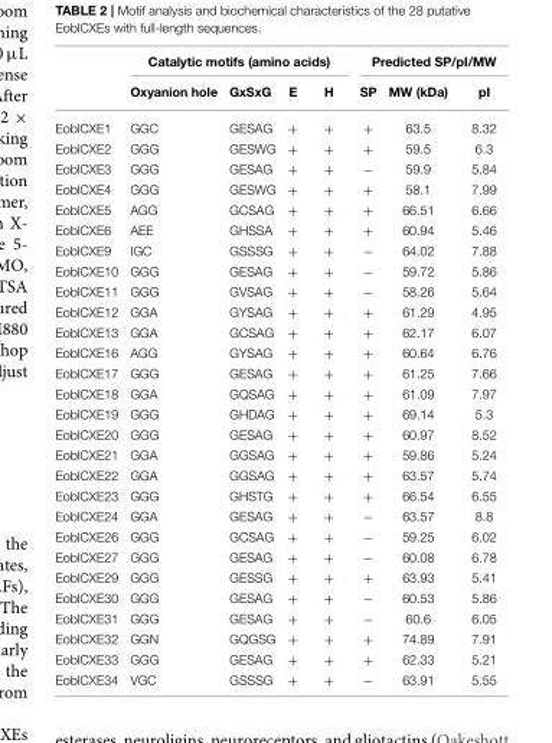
<table><thead><tr><td rowspan="2"></td><td colspan="4">Catalytic motifs (amino acids)</td><td colspan="3">Predicted SP/pI/MW</td></tr><tr><td>Oxyanion hole</td><td>GxSxG</td><td>E</td><td>H</td><td>SP</td><td>MW (kDa)</td><td>pI</td></tr></thead><tbody><tr><td>EoblCXE1</td><td>GGC</td><td>GESAG</td><td>+</td><td>+</td><td>+</td><td>63.5</td><td>8.32</td></tr><tr><td>EoblCXE2</td><td>GGG</td><td>GESWG</td><td>+</td><td>+</td><td>+</td><td>59.5</td><td>6.3</td></tr><tr><td>EoblCXE3</td><td>GGG</td><td>GESAG</td><td>+</td><td>+</td><td>−</td><td>59.9</td><td>5.84</td></tr><tr><td>EoblCXE4</td><td>GGG</td><td>GESWG</td><td>+</td><td>+</td><td>+</td><td>58.1</td><td>7.99</td></tr><tr><td>EoblCXE5</td><td>AGG</td><td>GCSAG</td><td>+</td><td>+</td><td>+</td><td>66.51</td><td>6.66</td></tr><tr><td>EoblCXE6</td><td>AEE</td><td>GHSSA</td><td>+</td><td>+</td><td>+</td><td>60.94</td><td>5.46</td></tr><tr><td>EoblCXE9</td><td>IGC</td><td>GSSSG</td><td>+</td><td>+</td><td>−</td><td>64.02</td><td>7.88</td></tr><tr><td>EoblCXE10</td><td>GGG</td><td>GESAG</td><td>+</td><td>+</td><td>−</td><td>59.72</td><td>5.86</td></tr><tr><td>EoblCXE11</td><td>GGG</td><td>GVSAG</td><td>+</td><td>+</td><td>−</td><td>58.26</td><td>5.64</td></tr><tr><td>EoblCXE12</td><td>GGA</td><td>GYSAG</td><td>+</td><td>+</td><td>+</td><td>61.29</td><td>4.95</td></tr><tr><td>EoblCXE13</td><td>GGA</td><td>GCSAG</td><td>+</td><td>+</td><td>+</td><td>62.17</td><td>6.07</td></tr><tr><td>EoblCXE16</td><td>AGG</td><td>GYSAG</td><td>+</td><td>+</td><td>+</td><td>60.64</td><td>6.76</td></tr><tr><td>EoblCXE17</td><td>GGG</td><td>GESAG</td><td>+</td><td>+</td><td>+</td><td>61.25</td><td>7.66</td></tr><tr><td>EoblCXE18</td><td>GGA</td><td>GQSAG</td><td>+</td><td>+</td><td>+</td><td>61.09</td><td>7.97</td></tr><tr><td>EoblCXE19</td><td>GGG</td><td>GHDAG</td><td>+</td><td>+</td><td>+</td><td>69.14</td><td>5.3</td></tr><tr><td>EoblCXE20</td><td>GGG</td><td>GESAG</td><td>+</td><td>+</td><td>+</td><td>60.97</td><td>8.52</td></tr><tr><td>EoblCXE21</td><td>GGA</td><td>GGSAG</td><td>+</td><td>+</td><td>+</td><td>59.86</td><td>5.24</td></tr><tr><td>EoblCXE22</td><td>GGA</td><td>GGSAG</td><td>+</td><td>+</td><td>+</td><td>63.57</td><td>5.74</td></tr><tr><td>EoblCXE23</td><td>GGG</td><td>GHSTG</td><td>+</td><td>+</td><td>+</td><td>66.54</td><td>6.55</td></tr><tr><td>EoblCXE24</td><td>GGA</td><td>GESAG</td><td>+</td><td>+</td><td>−</td><td>63.57</td><td>8.8</td></tr><tr><td>EoblCXE26</td><td>GGG</td><td>GCSAG</td><td>+</td><td>+</td><td>−</td><td>59.25</td><td>6.02</td></tr><tr><td>EoblCXE27</td><td>GGG</td><td>GESAG</td><td>+</td><td>+</td><td>−</td><td>60.08</td><td>6.78</td></tr><tr><td>EoblCXE29</td><td>GGG</td><td>GESSG</td><td>+</td><td>+</td><td>+</td><td>63.93</td><td>5.41</td></tr><tr><td>EoblCXE30</td><td>GGG</td><td>GESAG</td><td>+</td><td>+</td><td>−</td><td>60.53</td><td>5.86</td></tr><tr><td>EoblCXE31</td><td>GGG</td><td>GESAG</td><td>+</td><td>+</td><td>−</td><td>60.6</td><td>6.05</td></tr><tr><td>EoblCXE32</td><td>GGN</td><td>GQGSG</td><td>+</td><td>+</td><td>+</td><td>74.89</td><td>7.91</td></tr><tr><td>EoblCXE33</td><td>GGG</td><td>GESAG</td><td>+</td><td>+</td><td>+</td><td>62.33</td><td>5.21</td></tr><tr><td>EoblCXE34</td><td>VGC</td><td>GSSSG</td><td>+</td><td>+</td><td>−</td><td>63.91</td><td>5.55</td></tr></tbody></table>